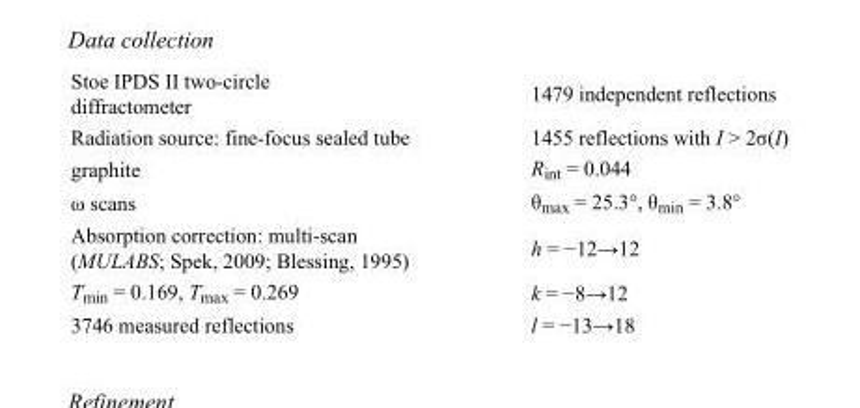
<table><tbody><tr><td>Stoe IPDS II two-circle diffractometer</td><td>1479 independent reflections</td></tr><tr><td>Radiation source: fine-focus sealed tube</td><td>1455 reflections with I &gt; 2σ(I)</td></tr><tr><td>graphite</td><td>R<sub>int</sub> = 0.044</td></tr><tr><td>ω scans</td><td>θ<sub>max</sub> = 25.3°, θ<sub>min</sub> = 3.8°</td></tr><tr><td>Absorption correction: multi-scan (MULABS; Spek, 2009; Blessing, 1995)</td><td>h = −12→12</td></tr><tr><td>T<sub>min</sub> = 0.169, T<sub>max</sub> = 0.269</td><td>k = −8→12</td></tr><tr><td>3746 measured reflections</td><td>l = −13→18</td></tr></tbody></table>